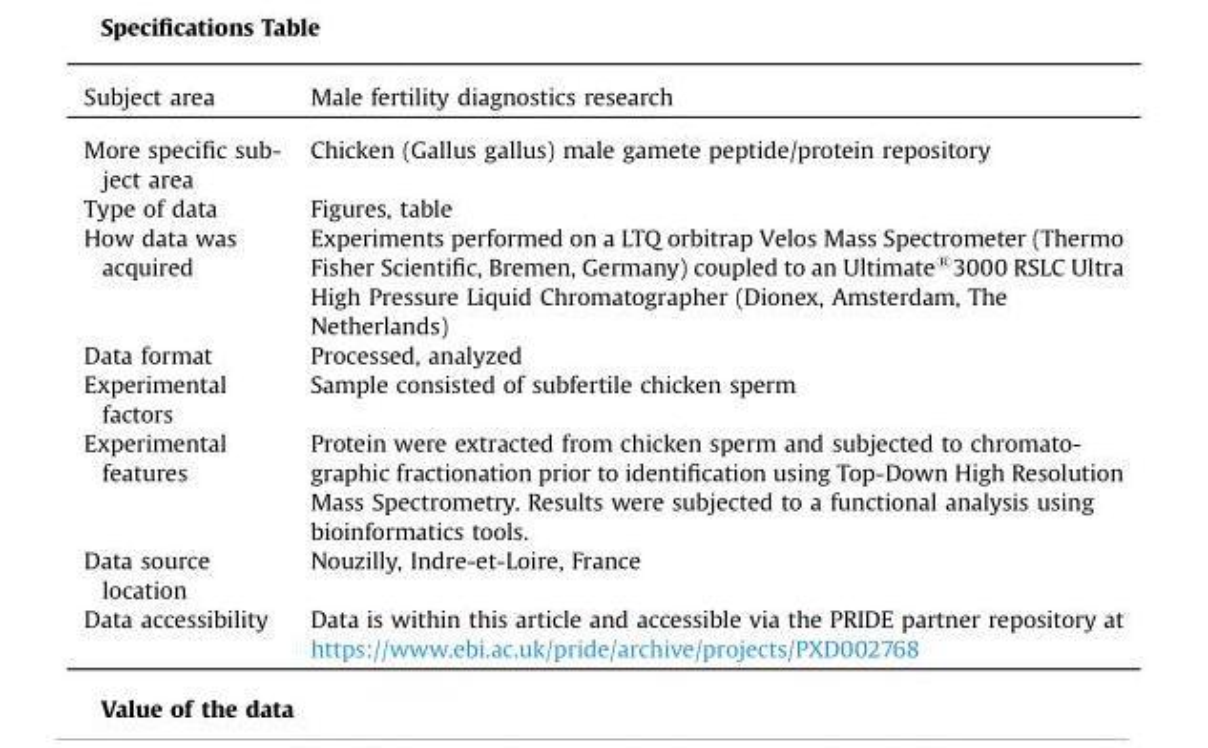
<table><tbody><tr><td>Subject area</td><td>Male fertility diagnostics research</td></tr><tr><td>More specific sub- ject area</td><td>Chicken (Gallus gallus) male gamete peptide/protein repository</td></tr><tr><td>Type of data</td><td>Figures, table</td></tr><tr><td>How data was acquired</td><td>Experiments performed on a LTQ orbitrap Velos Mass Spectrometer (Thermo Fisher Scientific, Bremen, Germany) coupled to an Ultimate®3000 RSLC Ultra High Pressure Liquid Chromatographer (Dionex, Amsterdam, The Netherlands)</td></tr><tr><td>Data format</td><td>Processed, analyzed</td></tr><tr><td>Experimental factors</td><td>Sample consisted of subfertile chicken sperm</td></tr><tr><td>Experimental features</td><td>Protein were extracted from chicken sperm and subjected to chromato- graphic fractionation prior to identification using Top-Down High Resolution Mass Spectrometry. Results were subjected to a functional analysis using bioinformatics tools.</td></tr><tr><td>Data source location</td><td>Nouzilly, Indre-et-Loire, France</td></tr><tr><td>Data accessibility</td><td>Data is within this article and accessible via the PRIDE partner repository at https://www.ebi.ac.uk/pride/archive/projects/PXD002768</td></tr></tbody></table>